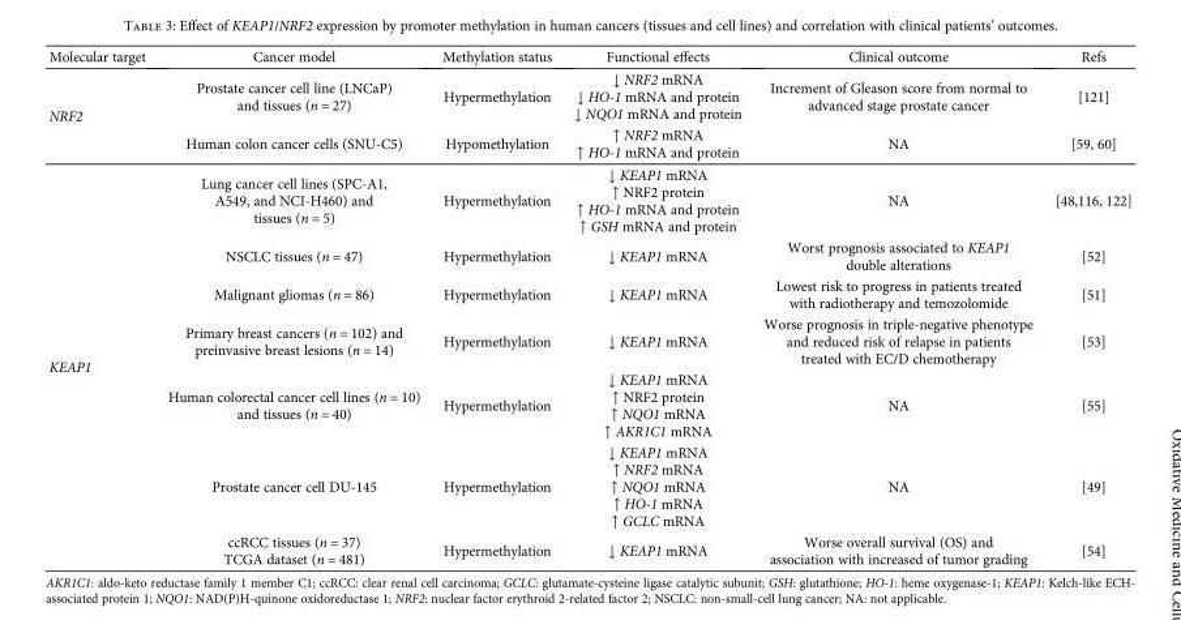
<table><thead><tr><td>Molecular target</td><td>Cancer model</td><td>Methylation status</td><td>Functional effects</td><td>Clinical outcome</td><td>Refs</td></tr></thead><tbody><tr><td rowspan="2">NRF2</td><td>Prostate cancer cell line (LNCaP) and tissues (n = 27)</td><td>Hypermethylation</td><td>↓ NRF2 mRNA ↓ HO-1 mRNA and protein ↓ NQO1 mRNA and protein</td><td>Increment of Gleason score from normal to advanced stage prostate cancer</td><td>[121]</td></tr><tr><td>Human colon cancer cells (SNU-C5)</td><td>Hypomethylation</td><td>↑ NRF2 mRNA ↑ HO-1 mRNA and protein</td><td>NA</td><td>[59, 60]</td></tr><tr><td rowspan="7">KEAP1</td><td>Lung cancer cell lines (SPC-A1, A549, and NCI-H460) and tissues (n = 5)</td><td>Hypermethylation</td><td>↓ KEAP1 mRNA ↑ NRF2 protein ↑ HO-1 mRNA and protein ↑ GSH mRNA and protein</td><td>NA</td><td>[48,116, 122]</td></tr><tr><td>NSCLC tissues (n = 47)</td><td>Hypermethylation</td><td>↓ KEAP1 mRNA</td><td>Worst prognosis associated to KEAP1 double alterations</td><td>[52]</td></tr><tr><td>Malignant gliomas (n = 86)</td><td>Hypermethylation</td><td>↓ KEAP1 mRNA</td><td>Lowest risk to progress in patients treated with radiotherapy and temozolomide</td><td>[51]</td></tr><tr><td>Primary breast cancers (n = 102) and preinvasive breast lesions (n = 14)</td><td>Hypermethylation</td><td>↓ KEAP1 mRNA</td><td>Worse prognosis in triple-negative phenotype and reduced risk of relapse in patients treated with EC/D chemotherapy</td><td>[53]</td></tr><tr><td>Human colorectal cancer cell lines (n = 10) and tissues (n = 40)</td><td>Hypermethylation</td><td>↓ KEAP1 mRNA ↑ NRF2 protein ↑ NQO1 mRNA ↑ AKR1C1 mRNA</td><td>NA</td><td>[55]</td></tr><tr><td>Prostate cancer cell DU-145</td><td>Hypermethylation</td><td>↓ KEAP1 mRNA ↑ NRF2 mRNA ↑ NQO1 mRNA ↑ HO-1 mRNA ↑ GCLC mRNA</td><td>NA</td><td>[49]</td></tr><tr><td>ccRCC tissues (n = 37) TCGA dataset (n = 481)</td><td>Hypermethylation</td><td>↓ KEAP1 mRNA</td><td>Worse overall survival (OS) and association with increased of tumor grading</td><td>[54]</td></tr></tbody></table>